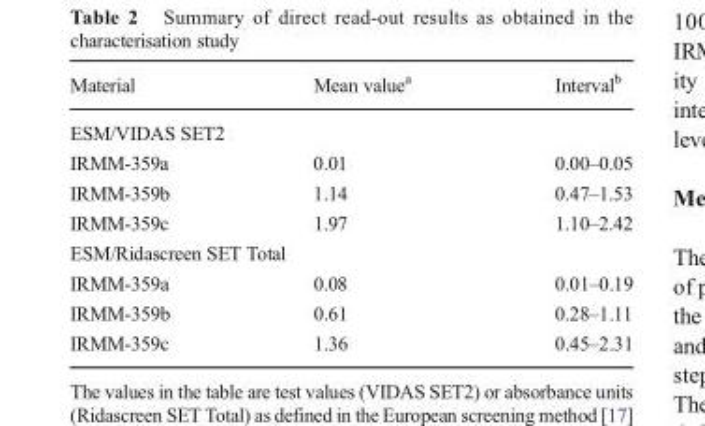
<table><thead><tr><td>Material</td><td>Mean value<sup>a</sup></td><td>Interval<sup>b</sup></td></tr></thead><tbody><tr><td colspan="3">ESM/VIDAS SET2</td></tr><tr><td>IRMM-359a</td><td>0.01</td><td>0.00–0.05</td></tr><tr><td>IRMM-359b</td><td>1.14</td><td>0.47–1.53</td></tr><tr><td>IRMM-359c</td><td>1.97</td><td>1.10–2.42</td></tr><tr><td colspan="3">ESM/Ridascreen SET Total</td></tr><tr><td>IRMM-359a</td><td>0.08</td><td>0.01–0.19</td></tr><tr><td>IRMM-359b</td><td>0.61</td><td>0.28–1.11</td></tr><tr><td>IRMM-359c</td><td>1.36</td><td>0.45–2.31</td></tr></tbody></table>